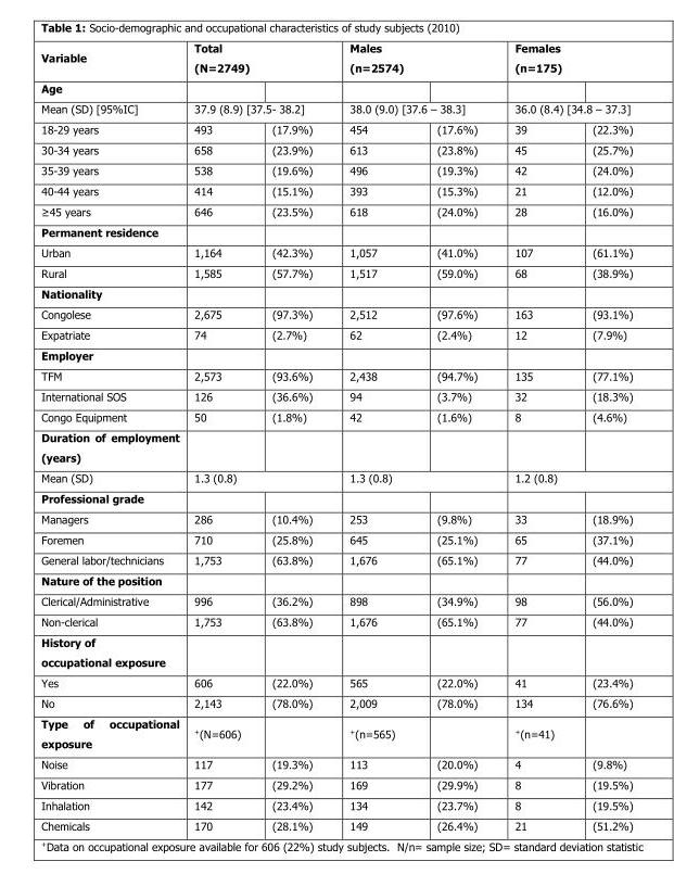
<table><thead><tr><td rowspan="2">Variable Age</td><td colspan="2">Total (N=2749)</td><td colspan="2">Males (n=2574)</td><td colspan="2">Females (n=175)</td></tr><tr><td></td><td></td><td></td><td></td><td></td><td></td></tr></thead><tbody><tr><td>Mean (SD) [95%IC]</td><td colspan="2">37.9 (8.9) [37.5- 38.2]</td><td colspan="2">38.0 (9.0) [37.6 – 38.3]</td><td colspan="2">36.0 (8.4) [34.8 – 37.3]</td></tr><tr><td>18-29 years</td><td>493</td><td>(17.9%)</td><td>454</td><td>(17.6%)</td><td>39</td><td>(22.3%)</td></tr><tr><td>30-34 years</td><td>658</td><td>(23.9%)</td><td>613</td><td>(23.8%)</td><td>45</td><td>(25.7%)</td></tr><tr><td>35-39 years</td><td>538</td><td>(19.6%)</td><td>496</td><td>(19.3%)</td><td>42</td><td>(24.0%)</td></tr><tr><td>40-44 years</td><td>414</td><td>(15.1%)</td><td>393</td><td>(15.3%)</td><td>21</td><td>(12.0%)</td></tr><tr><td>≥45 years</td><td>646</td><td>(23.5%)</td><td>618</td><td>(24.0%)</td><td>28</td><td>(16.0%)</td></tr><tr><td colspan="7">Permanent residence</td></tr><tr><td>Urban</td><td>1,164</td><td>(42.3%)</td><td>1,057</td><td>(41.0%)</td><td>107</td><td>(61.1%)</td></tr><tr><td>Rural</td><td>1,585</td><td>(57.7%)</td><td>1,517</td><td>(59.0%)</td><td>68</td><td>(38.9%)</td></tr><tr><td colspan="7">Nationality</td></tr><tr><td>Congolese</td><td>2,675</td><td>(97.3%)</td><td>2,512</td><td>(97.6%)</td><td>163</td><td>(93.1%)</td></tr><tr><td>Expatriate</td><td>74</td><td>(2.7%)</td><td>62</td><td>(2.4%)</td><td>12</td><td>(7.9%)</td></tr><tr><td colspan="7">Employer</td></tr><tr><td>TFM</td><td>2,573</td><td>(93.6%)</td><td>2,438</td><td>(94.7%)</td><td>135</td><td>(77.1%)</td></tr><tr><td>International SOS</td><td>126</td><td>(36.6%)</td><td>94</td><td>(3.7%)</td><td>32</td><td>(18.3%)</td></tr><tr><td>Congo Equipment</td><td>50</td><td>(1.8%)</td><td>42</td><td>(1.6%)</td><td>8</td><td>(4.6%)</td></tr><tr><td colspan="7">Duration of employment (years)</td></tr><tr><td>Mean (SD)</td><td colspan="2">1.3 (0.8)</td><td colspan="2">1.3 (0.8)</td><td colspan="2">1.2 (0.8)</td></tr><tr><td colspan="7">Professional grade</td></tr><tr><td>Managers</td><td>286</td><td>(10.4%)</td><td>253</td><td>(9.8%)</td><td>33</td><td>(18.9%)</td></tr><tr><td>Foremen</td><td>710</td><td>(25.8%)</td><td>645</td><td>(25.1%)</td><td>65</td><td>(37.1%)</td></tr><tr><td>General labor/technicians</td><td>1,753</td><td>(63.8%)</td><td>1,676</td><td>(65.1%)</td><td>77</td><td>(44.0%)</td></tr><tr><td colspan="7">Nature of the position</td></tr><tr><td>Clerical/Administrative</td><td>996</td><td>(36.2%)</td><td>898</td><td>(34.9%)</td><td>98</td><td>(56.0%)</td></tr><tr><td>Non-clerical</td><td>1,753</td><td>(63.8%)</td><td>1,676</td><td>(65.1%)</td><td>77</td><td>(44.0%)</td></tr><tr><td colspan="7">History of occupational exposure</td></tr><tr><td>Yes</td><td>606</td><td>(22.0%)</td><td>565</td><td>(22.0%)</td><td>41</td><td>(23.4%)</td></tr><tr><td>No</td><td>2,143</td><td>(78.0%)</td><td>2,009</td><td>(78.0%)</td><td>134</td><td>(76.6%)</td></tr><tr><td>Type of occupational exposure</td><td><sup>+</sup>(N=606)</td><td></td><td><sup>+</sup>(n=565)</td><td></td><td><sup>+</sup>(n=41)</td><td></td></tr><tr><td>Noise</td><td>117</td><td>(19.3%)</td><td>113</td><td>(20.0%)</td><td>4</td><td>(9.8%)</td></tr><tr><td>Vibration</td><td>177</td><td>(29.2%)</td><td>169</td><td>(29.9%)</td><td>8</td><td>(19.5%)</td></tr><tr><td>Inhalation</td><td>142</td><td>(23.4%)</td><td>134</td><td>(23.7%)</td><td>8</td><td>(19.5%)</td></tr><tr><td>Chemicals</td><td>170</td><td>(28.1%)</td><td>149</td><td>(26.4%)</td><td>21</td><td>(51.2%)</td></tr></tbody></table>